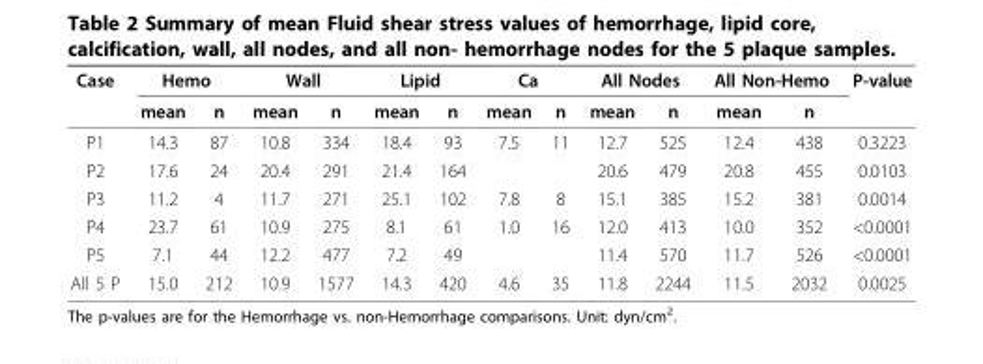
<table><thead><tr><td rowspan="2">Case</td><td colspan="2">Hemo</td><td colspan="2">Wall</td><td colspan="2">Lipid</td><td colspan="2">Ca</td><td colspan="2">All Nodes</td><td colspan="2">All Non-Hemo</td><td rowspan="2">P-value</td></tr><tr><td>mean</td><td>n</td><td>mean</td><td>n</td><td>mean</td><td>n</td><td>mean</td><td>n</td><td>mean</td><td>n</td><td>mean</td><td>n</td></tr></thead><tbody><tr><td>P1</td><td>14.3</td><td>87</td><td>10.8</td><td>334</td><td>18.4</td><td>93</td><td>7.5</td><td>11</td><td>12.7</td><td>525</td><td>12.4</td><td>438</td><td>0.3223</td></tr><tr><td>P2</td><td>17.6</td><td>24</td><td>20.4</td><td>291</td><td>21.4</td><td>164</td><td></td><td></td><td>20.6</td><td>479</td><td>20.8</td><td>455</td><td>0.0103</td></tr><tr><td>P3</td><td>11.2</td><td>4</td><td>11.7</td><td>271</td><td>25.1</td><td>102</td><td>7.8</td><td>8</td><td>15.1</td><td>385</td><td>15.2</td><td>381</td><td>0.0014</td></tr><tr><td>P4</td><td>23.7</td><td>61</td><td>10.9</td><td>275</td><td>8.1</td><td>61</td><td>1.0</td><td>16</td><td>12.0</td><td>413</td><td>10.0</td><td>352</td><td>&lt;0.0001</td></tr><tr><td>P5</td><td>7.1</td><td>44</td><td>12.2</td><td>477</td><td>7.2</td><td>49</td><td></td><td></td><td>11.4</td><td>570</td><td>11.7</td><td>526</td><td>&lt;0.0001</td></tr><tr><td>All 5 P</td><td>15.0</td><td>212</td><td>10.9</td><td>1577</td><td>14.3</td><td>420</td><td>4.6</td><td>35</td><td>11.8</td><td>2244</td><td>11.5</td><td>2032</td><td>0.0025</td></tr></tbody></table>